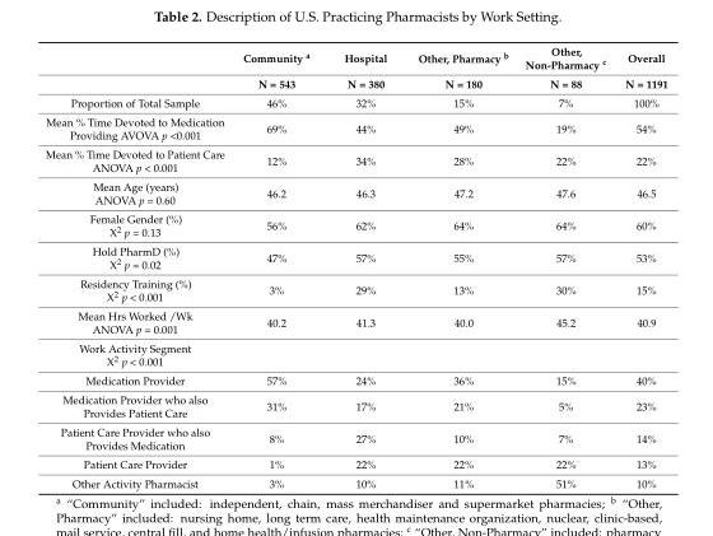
<table><thead><tr><td rowspan="2"></td><td rowspan="2">Community <sup>a</sup> N = 543</td><td rowspan="2">Hospital N = 380</td><td rowspan="2">Other, Pharmacy <sup>b</sup> N = 180</td><td rowspan="2">Other, Non-Pharmacy <sup>c</sup> N = 88</td><td rowspan="2">Overall N = 1191</td></tr><tr></tr></thead><tbody><tr><td>Proportion of Total Sample</td><td>46%</td><td>32%</td><td>15%</td><td>7%</td><td>100%</td></tr><tr><td>Mean % Time Devoted to Medication Providing AVOVA p &lt;0.001</td><td>69%</td><td>44%</td><td>49%</td><td>19%</td><td>54%</td></tr><tr><td>Mean % Time Devoted to Patient Care ANOVA p &lt; 0.001</td><td>12%</td><td>34%</td><td>28%</td><td>22%</td><td>22%</td></tr><tr><td>Mean Age (years) ANOVA p = 0.60</td><td>46.2</td><td>46.3</td><td>47.2</td><td>47.6</td><td>46.5</td></tr><tr><td>Female Gender (%) X<sup>2</sup> p = 0.13</td><td>56%</td><td>62%</td><td>64%</td><td>64%</td><td>60%</td></tr><tr><td>Hold PharmD (%) X<sup>2</sup> p = 0.02</td><td>47%</td><td>57%</td><td>55%</td><td>57%</td><td>53%</td></tr><tr><td>Residency Training (%) X<sup>2</sup> p &lt; 0.001</td><td>3%</td><td>29%</td><td>13%</td><td>30%</td><td>15%</td></tr><tr><td>Mean Hrs Worked /Wk ANOVA p = 0.001</td><td>40.2</td><td>41.3</td><td>40.0</td><td>45.2</td><td>40.9</td></tr><tr><td colspan="6">Work Activity Segment X<sup>2</sup> p &lt; 0.001</td></tr><tr><td>Medication Provider</td><td>57%</td><td>24%</td><td>36%</td><td>15%</td><td>40%</td></tr><tr><td>Medication Provider who also Provides Patient Care</td><td>31%</td><td>17%</td><td>21%</td><td>5%</td><td>23%</td></tr><tr><td>Patient Care Provider who also Provides Medication</td><td>8%</td><td>27%</td><td>10%</td><td>7%</td><td>14%</td></tr><tr><td>Patient Care Provider</td><td>1%</td><td>22%</td><td>22%</td><td>22%</td><td>13%</td></tr><tr><td>Other Activity Pharmacist</td><td>3%</td><td>10%</td><td>11%</td><td>51%</td><td>10%</td></tr></tbody></table>